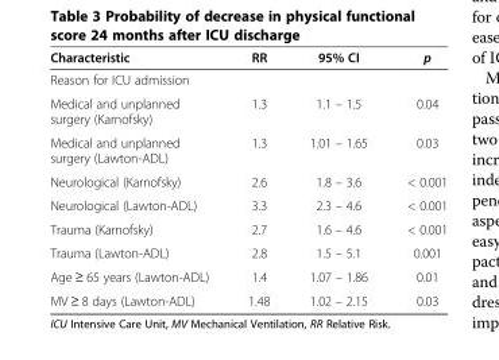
<table><thead><tr><td>Characteristic</td><td>RR</td><td>95% CI</td><td>p</td></tr></thead><tbody><tr><td colspan="4">Reason for ICU admission</td></tr><tr><td>Medical and unplanned surgery (Karnofsky)</td><td>1.3</td><td>1.1 – 1.5</td><td>0.04</td></tr><tr><td>Medical and unplanned surgery (Lawton-ADL)</td><td>1.3</td><td>1.01 – 1.65</td><td>0.03</td></tr><tr><td>Neurological (Karnofsky)</td><td>2.6</td><td>1.8 – 3.6</td><td>&lt; 0.001</td></tr><tr><td>Neurological (Lawton-ADL)</td><td>3.3</td><td>2.3 – 4.6</td><td>&lt; 0.001</td></tr><tr><td>Trauma (Karnofsky)</td><td>2.7</td><td>1.6 – 4.6</td><td>&lt; 0.001</td></tr><tr><td>Trauma (Lawton-ADL)</td><td>2.8</td><td>1.5 – 5.1</td><td>0.001</td></tr><tr><td>Age ≥ 65 years (Lawton-ADL)</td><td>1.4</td><td>1.07 – 1.86</td><td>0.01</td></tr><tr><td>MV ≥ 8 days (Lawton-ADL)</td><td>1.48</td><td>1.02 – 2.15</td><td>0.03</td></tr></tbody></table>